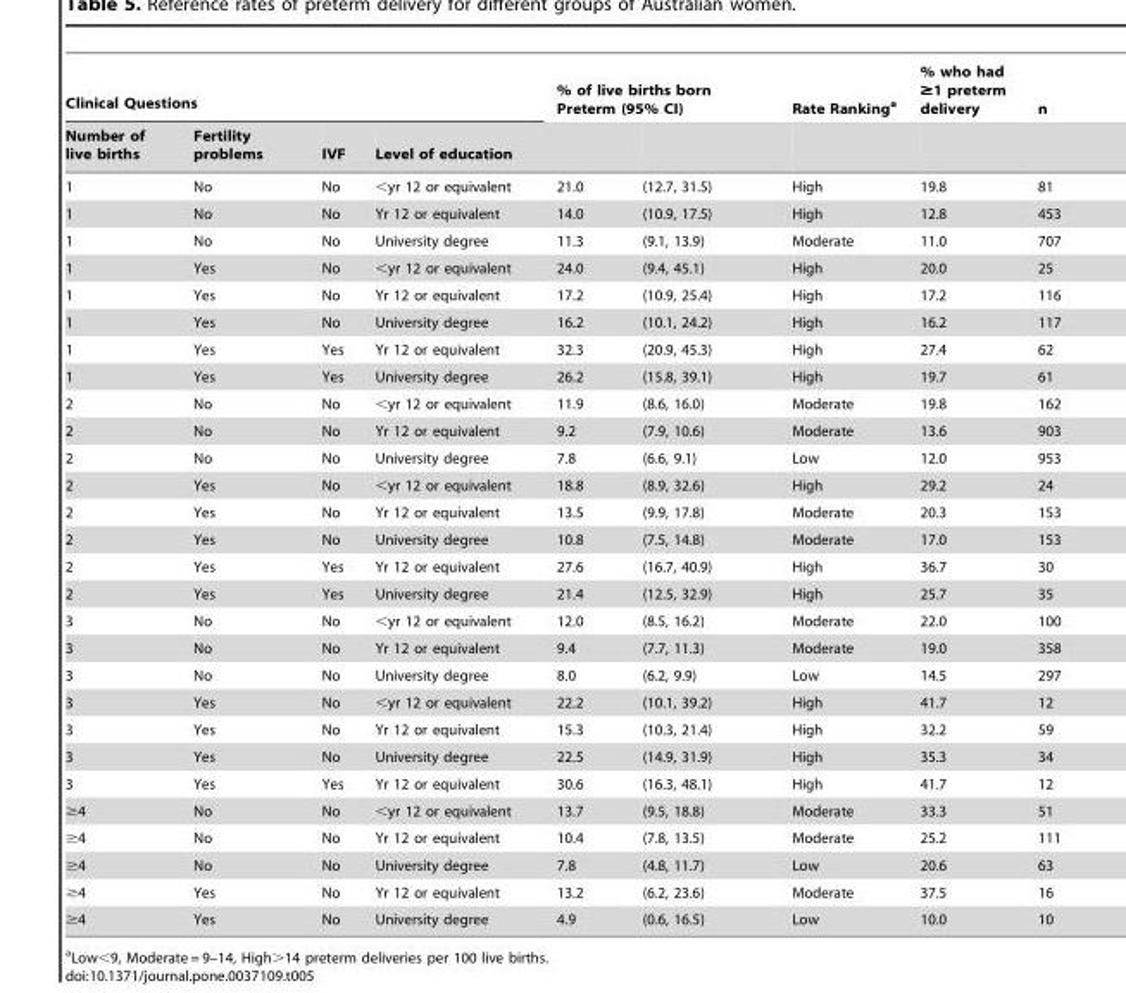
<table><thead><tr><td colspan="4">Clinical Questions</td><td colspan="2">% of live births born Preterm (95% CI)</td><td rowspan="2">Rate Ranking<sup>a</sup></td><td rowspan="2">% who had ≥1 preterm delivery</td><td rowspan="2">n</td></tr><tr><td>Number of live births</td><td>Fertility problems</td><td>IVF</td><td>Level of education</td><td></td><td></td></tr></thead><tbody><tr><td>1</td><td>No</td><td>No</td><td>&lt;yr 12 or equivalent</td><td>21.0</td><td>(12.7, 31.5)</td><td>High</td><td>19.8</td><td>81</td></tr><tr><td>1</td><td>No</td><td>No</td><td>Yr 12 or equivalent</td><td>14.0</td><td>(10.9, 17.5)</td><td>High</td><td>12.8</td><td>453</td></tr><tr><td>1</td><td>No</td><td>No</td><td>University degree</td><td>11.3</td><td>(9.1, 13.9)</td><td>Moderate</td><td>11.0</td><td>707</td></tr><tr><td>1</td><td>Yes</td><td>No</td><td>&lt;yr 12 or equivalent</td><td>24.0</td><td>(9.4, 45.1)</td><td>High</td><td>20.0</td><td>25</td></tr><tr><td>1</td><td>Yes</td><td>No</td><td>Yr 12 or equivalent</td><td>17.2</td><td>(10.9, 25.4)</td><td>High</td><td>17.2</td><td>116</td></tr><tr><td>1</td><td>Yes</td><td>No</td><td>University degree</td><td>16.2</td><td>(10.1, 24.2)</td><td>High</td><td>16.2</td><td>117</td></tr><tr><td>1</td><td>Yes</td><td>Yes</td><td>Yr 12 or equivalent</td><td>32.3</td><td>(20.9, 45.3)</td><td>High</td><td>27.4</td><td>62</td></tr><tr><td>1</td><td>Yes</td><td>Yes</td><td>University degree</td><td>26.2</td><td>(15.8, 39.1)</td><td>High</td><td>19.7</td><td>61</td></tr><tr><td>2</td><td>No</td><td>No</td><td>&lt;yr 12 or equivalent</td><td>11.9</td><td>(8.6, 16.0)</td><td>Moderate</td><td>19.8</td><td>162</td></tr><tr><td>2</td><td>No</td><td>No</td><td>Yr 12 or equivalent</td><td>9.2</td><td>(7.9, 10.6)</td><td>Moderate</td><td>13.6</td><td>903</td></tr><tr><td>2</td><td>No</td><td>No</td><td>University degree</td><td>7.8</td><td>(6.6, 9.1)</td><td>Low</td><td>12.0</td><td>953</td></tr><tr><td>2</td><td>Yes</td><td>No</td><td>&lt;yr 12 or equivalent</td><td>18.8</td><td>(8.9, 32.6)</td><td>High</td><td>29.2</td><td>24</td></tr><tr><td>2</td><td>Yes</td><td>No</td><td>Yr 12 or equivalent</td><td>13.5</td><td>(9.9, 17.8)</td><td>Moderate</td><td>20.3</td><td>153</td></tr><tr><td>2</td><td>Yes</td><td>No</td><td>University degree</td><td>10.8</td><td>(7.5, 14.8)</td><td>Moderate</td><td>17.0</td><td>153</td></tr><tr><td>2</td><td>Yes</td><td>Yes</td><td>Yr 12 or equivalent</td><td>27.6</td><td>(16.7, 40.9)</td><td>High</td><td>36.7</td><td>30</td></tr><tr><td>2</td><td>Yes</td><td>Yes</td><td>University degree</td><td>21.4</td><td>(12.5, 32.9)</td><td>High</td><td>25.7</td><td>35</td></tr><tr><td>3</td><td>No</td><td>No</td><td>&lt;yr 12 or equivalent</td><td>12.0</td><td>(8.5, 16.2)</td><td>Moderate</td><td>22.0</td><td>100</td></tr><tr><td>3</td><td>No</td><td>No</td><td>Yr 12 or equivalent</td><td>9.4</td><td>(7.7, 11.3)</td><td>Moderate</td><td>19.0</td><td>358</td></tr><tr><td>3</td><td>No</td><td>No</td><td>University degree</td><td>8.0</td><td>(6.2, 9.9)</td><td>Low</td><td>14.5</td><td>297</td></tr><tr><td>3</td><td>Yes</td><td>No</td><td>&lt;yr 12 or equivalent</td><td>22.2</td><td>(10.1, 39.2)</td><td>High</td><td>41.7</td><td>12</td></tr><tr><td>3</td><td>Yes</td><td>No</td><td>Yr 12 or equivalent</td><td>15.3</td><td>(10.3, 21.4)</td><td>High</td><td>32.2</td><td>59</td></tr><tr><td>3</td><td>Yes</td><td>No</td><td>University degree</td><td>22.5</td><td>(14.9, 31.9)</td><td>High</td><td>35.3</td><td>34</td></tr><tr><td>3</td><td>Yes</td><td>Yes</td><td>Yr 12 or equivalent</td><td>30.6</td><td>(16.3, 48.1)</td><td>High</td><td>41.7</td><td>12</td></tr><tr><td>≥4</td><td>No</td><td>No</td><td>&lt;yr 12 or equivalent</td><td>13.7</td><td>(9.5, 18.8)</td><td>Moderate</td><td>33.3</td><td>51</td></tr><tr><td>≥4</td><td>No</td><td>No</td><td>Yr 12 or equivalent</td><td>10.4</td><td>(7.8, 13.5)</td><td>Moderate</td><td>25.2</td><td>111</td></tr><tr><td>≥4</td><td>No</td><td>No</td><td>University degree</td><td>7.8</td><td>(4.8, 11.7)</td><td>Low</td><td>20.6</td><td>63</td></tr><tr><td>≥4</td><td>Yes</td><td>No</td><td>Yr 12 or equivalent</td><td>13.2</td><td>(6.2, 23.6)</td><td>Moderate</td><td>37.5</td><td>16</td></tr><tr><td>≥4</td><td>Yes</td><td>No</td><td>University degree</td><td>4.9</td><td>(0.6, 16.5)</td><td>Low</td><td>10.0</td><td>10</td></tr></tbody></table>